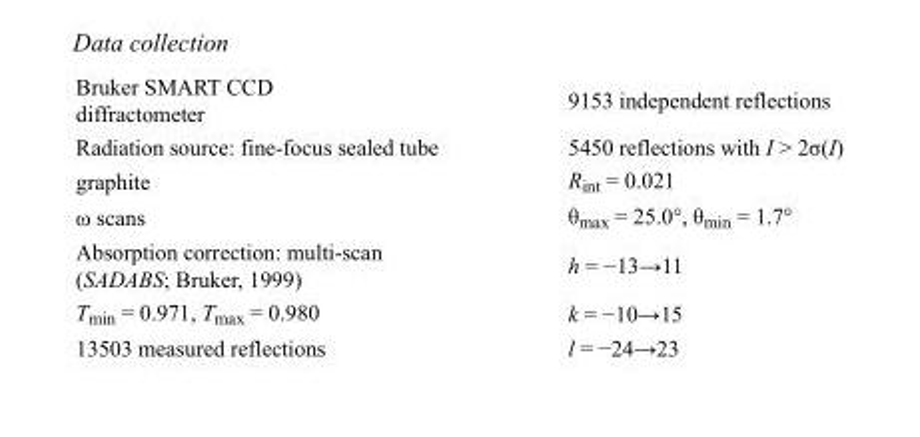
<table><tbody><tr><td>Bruker SMART CCD diffractometer</td><td>9153 independent reflections</td></tr><tr><td>Radiation source: fine-focus sealed tube</td><td>5450 reflections with I &gt; 2σ(I)</td></tr><tr><td>graphite</td><td>R<sub>int</sub> = 0.021</td></tr><tr><td>ω scans</td><td>θ<sub>max</sub> = 25.0°, θ<sub>min</sub> = 1.7°</td></tr><tr><td>Absorption correction: multi-scan (SADABS; Bruker, 1999)</td><td>h = −13→11</td></tr><tr><td>T<sub>min</sub> = 0.971, T<sub>max</sub> = 0.980</td><td>k = −10→15</td></tr><tr><td>13503 measured reflections</td><td>l = −24→23</td></tr></tbody></table>